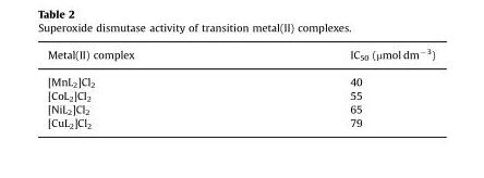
<table><thead><tr><td>Metal(II) complex</td><td>IC<sub>50</sub> (µmol dm<sup>−3</sup>)</td></tr></thead><tbody><tr><td>[MnL<sub>2</sub>]Cl<sub>2</sub></td><td>40</td></tr><tr><td>[CoL<sub>2</sub>]Cl<sub>2</sub></td><td>55</td></tr><tr><td>[NiL<sub>2</sub>]Cl<sub>2</sub></td><td>65</td></tr><tr><td>[CuL<sub>2</sub>]Cl<sub>2</sub></td><td>79</td></tr></tbody></table>